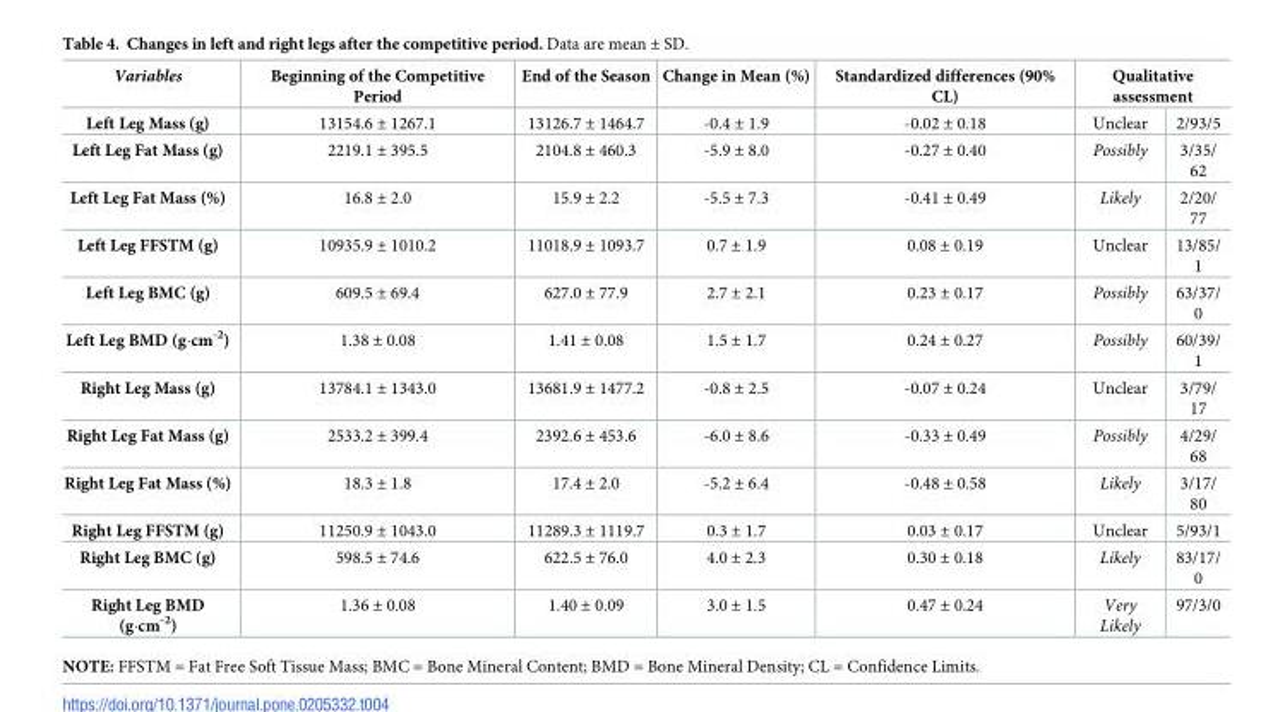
<table><thead><tr><td rowspan="2">Variables Left Leg Mass (g)</td><td rowspan="2">Beginning of the Competitive Period 13154.6 ± 1267.1</td><td rowspan="2">End of the Season 13126.7 ± 1464.7</td><td rowspan="2">Change in Mean (%) -0.4 ± 1.9</td><td rowspan="2">Standardized differences (90% CL) -0.02 ± 0.18</td><td colspan="2">Qualitative assessment</td></tr><tr><td>Unclear</td><td>2/93/5</td></tr></thead><tbody><tr><td>Left Leg Fat Mass (g)</td><td>2219.1 ± 395.5</td><td>2104.8 ± 460.3</td><td>-5.9 ± 8.0</td><td>-0.27 ± 0.40</td><td>Possibly</td><td>3/35/ 62</td></tr><tr><td>Left Leg Fat Mass (%)</td><td>16.8 ± 2.0</td><td>15.9 ± 2.2</td><td>-5.5 ± 7.3</td><td>-0.41 ± 0.49</td><td>Likely</td><td>2/20/ 77</td></tr><tr><td>Left Leg FFSTM (g)</td><td>10935.9 ± 1010.2</td><td>11018.9 ± 1093.7</td><td>0.7 ± 1.9</td><td>0.08 ± 0.19</td><td>Unclear</td><td>13/85/ 1</td></tr><tr><td>Left Leg BMC (g)</td><td>609.5 ± 69.4</td><td>627.0 ± 77.9</td><td>2.7 ± 2.1</td><td>0.23 ± 0.17</td><td>Possibly</td><td>63/37/ 0</td></tr><tr><td>Left Leg BMD (g∙cm<sup>-2</sup>)</td><td>1.38 ± 0.08</td><td>1.41 ± 0.08</td><td>1.5 ± 1.7</td><td>0.24 ± 0.27</td><td>Possibly</td><td>60/39/ 1</td></tr><tr><td>Right Leg Mass (g)</td><td>13784.1 ± 1343.0</td><td>13681.9 ± 1477.2</td><td>-0.8 ± 2.5</td><td>-0.07 ± 0.24</td><td>Unclear</td><td>3/79/ 17</td></tr><tr><td>Right Leg Fat Mass (g)</td><td>2533.2 ± 399.4</td><td>2392.6 ± 453.6</td><td>-6.0 ± 8.6</td><td>-0.33 ± 0.49</td><td>Possibly</td><td>4/29/ 68</td></tr><tr><td>Right Leg Fat Mass (%)</td><td>18.3 ± 1.8</td><td>17.4 ± 2.0</td><td>-5.2 ± 6.4</td><td>-0.48 ± 0.58</td><td>Likely</td><td>3/17/ 80</td></tr><tr><td>Right Leg FFSTM (g)</td><td>11250.9 ± 1043.0</td><td>11289.3 ± 1119.7</td><td>0.3 ± 1.7</td><td>0.03 ± 0.17</td><td>Unclear</td><td>5/93/1</td></tr><tr><td>Right Leg BMC (g)</td><td>598.5 ± 74.6</td><td>622.5 ± 76.0</td><td>4.0 ± 2.3</td><td>0.30 ± 0.18</td><td>Likely</td><td>83/17/ 0</td></tr><tr><td>Right Leg BMD (g∙cm<sup>-2</sup>)</td><td>1.36 ± 0.08</td><td>1.40 ± 0.09</td><td>3.0 ± 1.5</td><td>0.47 ± 0.24</td><td>Very Likely</td><td>97/3/0</td></tr></tbody></table>